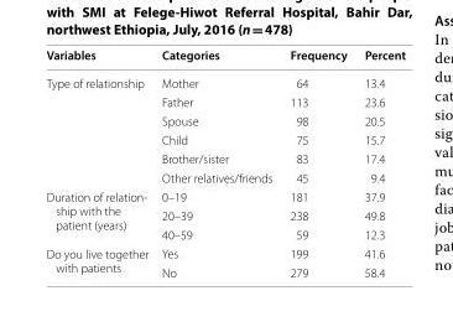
<table><thead><tr><td>Variables</td><td>Categories</td><td>Frequency</td><td>Percent</td></tr></thead><tbody><tr><td rowspan="6">Type of relationship</td><td>Mother</td><td>64</td><td>13.4</td></tr><tr><td>Father</td><td>113</td><td>23.6</td></tr><tr><td>Spouse</td><td>98</td><td>20.5</td></tr><tr><td>Child</td><td>75</td><td>15.7</td></tr><tr><td>Brother/sister</td><td>83</td><td>17.4</td></tr><tr><td>Other relatives/friends</td><td>45</td><td>9.4</td></tr><tr><td rowspan="3">Duration of relation- ship with the patient (years)</td><td>0–19</td><td>181</td><td>37.9</td></tr><tr><td>20–39</td><td>238</td><td>49.8</td></tr><tr><td>40–59</td><td>59</td><td>12.3</td></tr><tr><td rowspan="2">Do you live together with patients</td><td>Yes</td><td>199</td><td>41.6</td></tr><tr><td>No</td><td>279</td><td>58.4</td></tr></tbody></table>